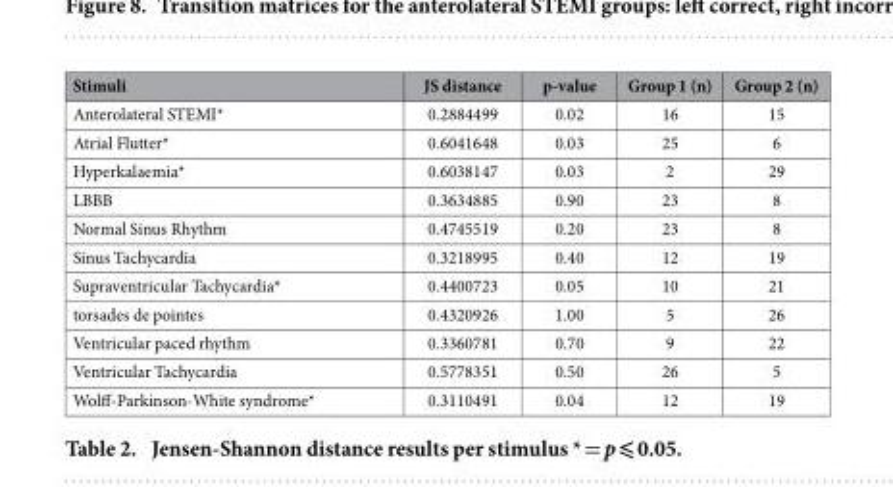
<table><thead><tr><td>Stimuli</td><td>JS distance</td><td>p-value</td><td>Group 1 (n)</td><td>Group 2 (n)</td></tr></thead><tbody><tr><td>Anterolateral STEMI*</td><td>0.2884499</td><td>0.02</td><td>16</td><td>15</td></tr><tr><td>Atrial Flutter*</td><td>0.6041648</td><td>0.03</td><td>25</td><td>6</td></tr><tr><td>Hyperkalaemia*</td><td>0.6038147</td><td>0.03</td><td>2</td><td>29</td></tr><tr><td>LBBB</td><td>0.3634885</td><td>0.90</td><td>23</td><td>8</td></tr><tr><td>Normal Sinus Rhythm</td><td>0.4745519</td><td>0.20</td><td>23</td><td>8</td></tr><tr><td>Sinus Tachycardia</td><td>0.3218995</td><td>0.40</td><td>12</td><td>19</td></tr><tr><td>Supraventricular Tachycardia*</td><td>0.4400723</td><td>0.05</td><td>10</td><td>21</td></tr><tr><td>torsades de pointes</td><td>0.4320926</td><td>1.00</td><td>5</td><td>26</td></tr><tr><td>Ventricular paced rhythm</td><td>0.3360781</td><td>0.70</td><td>9</td><td>22</td></tr><tr><td>Ventricular Tachycardia</td><td>0.5778351</td><td>0.50</td><td>26</td><td>5</td></tr><tr><td>Wolff-Parkinson-White syndrome*</td><td>0.3110491</td><td>0.04</td><td>12</td><td>19</td></tr></tbody></table>